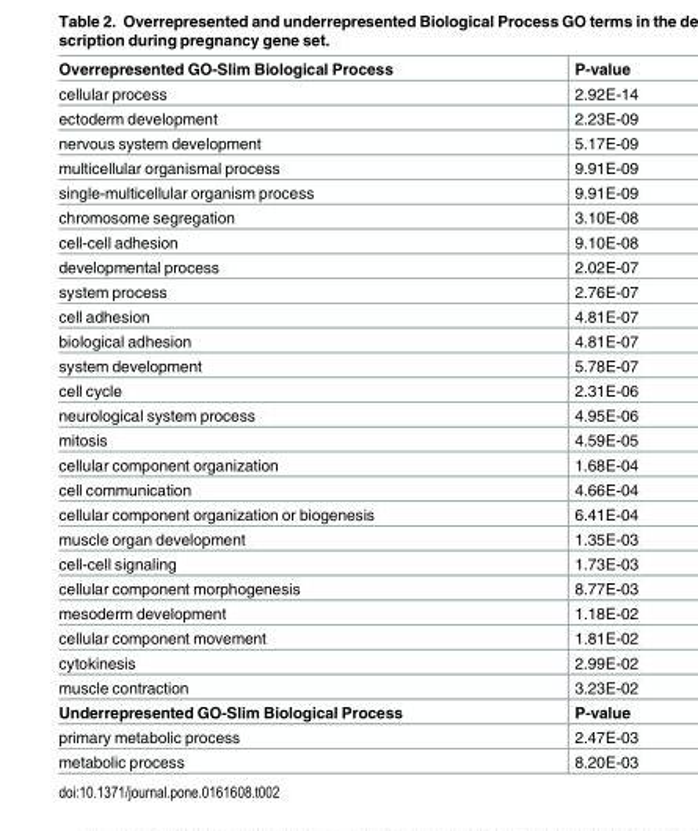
<table><tbody><tr><td>Overrepresented GO-Slim Biological Process</td><td>P-value</td></tr><tr><td>cellular process</td><td>2.92E-14</td></tr><tr><td>ectoderm development</td><td>2.23E-09</td></tr><tr><td>nervous system development</td><td>5.17E-09</td></tr><tr><td>multicellular organismal process</td><td>9.91E-09</td></tr><tr><td>single-multicellular organism process</td><td>9.91E-09</td></tr><tr><td>chromosome segregation</td><td>3.10E-08</td></tr><tr><td>cell-cell adhesion</td><td>9.10E-08</td></tr><tr><td>developmental process</td><td>2.02E-07</td></tr><tr><td>system process</td><td>2.76E-07</td></tr><tr><td>cell adhesion</td><td>4.81E-07</td></tr><tr><td>biological adhesion</td><td>4.81E-07</td></tr><tr><td>system development</td><td>5.78E-07</td></tr><tr><td>cell cycle</td><td>2.31E-06</td></tr><tr><td>neurological system process</td><td>4.95E-06</td></tr><tr><td>mitosis</td><td>4.59E-05</td></tr><tr><td>cellular component organization</td><td>1.68E-04</td></tr><tr><td>cell communication</td><td>4.66E-04</td></tr><tr><td>cellular component organization or biogenesis</td><td>6.41E-04</td></tr><tr><td>muscle organ development</td><td>1.35E-03</td></tr><tr><td>cell-cell signaling</td><td>1.73E-03</td></tr><tr><td>cellular component morphogenesis</td><td>8.77E-03</td></tr><tr><td>mesoderm development</td><td>1.18E-02</td></tr><tr><td>cellular component movement</td><td>1.81E-02</td></tr><tr><td>cytokinesis</td><td>2.99E-02</td></tr><tr><td>muscle contraction</td><td>3.23E-02</td></tr><tr><td>Underrepresented GO-Slim Biological Process</td><td>P-value</td></tr><tr><td>primary metabolic process</td><td>2.47E-03</td></tr><tr><td>metabolic process</td><td>8.20E-03</td></tr></tbody></table>